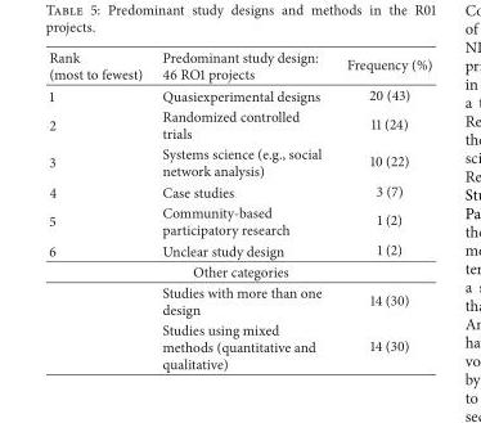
<table><thead><tr><td>Rank (most to fewest)</td><td>Predominant study design: 46 RO1 projects</td><td>Frequency (%)</td></tr></thead><tbody><tr><td>1</td><td>Quasiexperimental designs</td><td>20 (43)</td></tr><tr><td>2</td><td>Randomized controlled trials</td><td>11 (24)</td></tr><tr><td>3</td><td>Systems science (e.g., social network analysis)</td><td>10 (22)</td></tr><tr><td>4</td><td>Case studies</td><td>3 (7)</td></tr><tr><td>5</td><td>Community-based participatory research</td><td>1 (2)</td></tr><tr><td>6</td><td>Unclear study design</td><td>1 (2)</td></tr><tr><td colspan="3">Other categories</td></tr><tr><td></td><td>Studies with more than one design</td><td>14 (30)</td></tr><tr><td></td><td>Studies using mixed methods (quantitative and qualitative)</td><td>14 (30)</td></tr></tbody></table>